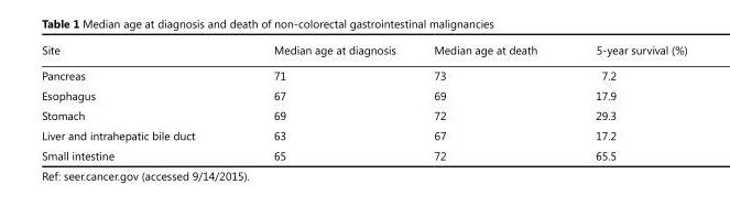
<table><thead><tr><td>Site</td><td>Median age at diagnosis</td><td>Median age at death</td><td>5-year survival (%)</td></tr></thead><tbody><tr><td>Pancreas</td><td>71</td><td>73</td><td>7.2</td></tr><tr><td>Esophagus</td><td>67</td><td>69</td><td>17.9</td></tr><tr><td>Stomach</td><td>69</td><td>72</td><td>29.3</td></tr><tr><td>Liver and intrahepatic bile duct</td><td>63</td><td>67</td><td>17.2</td></tr><tr><td>Small intestine</td><td>65</td><td>72</td><td>65.5</td></tr></tbody></table>